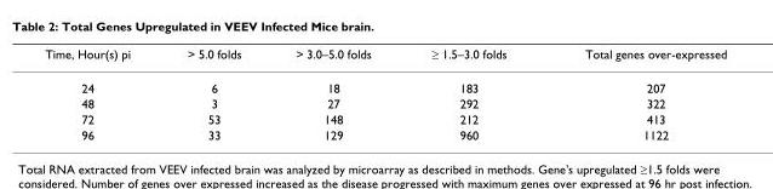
<table><thead><tr><td>Time, Hour(s) pi</td><td>&gt; 5.0 folds</td><td>&gt; 3.0–5.0 folds</td><td>≥ 1.5–3.0 folds</td><td>Total genes over-expressed</td></tr></thead><tbody><tr><td>24</td><td>6</td><td>18</td><td>183</td><td>207</td></tr><tr><td>48</td><td>3</td><td>27</td><td>292</td><td>322</td></tr><tr><td>72</td><td>53</td><td>148</td><td>212</td><td>413</td></tr><tr><td>96</td><td>33</td><td>129</td><td>960</td><td>1122</td></tr></tbody></table>